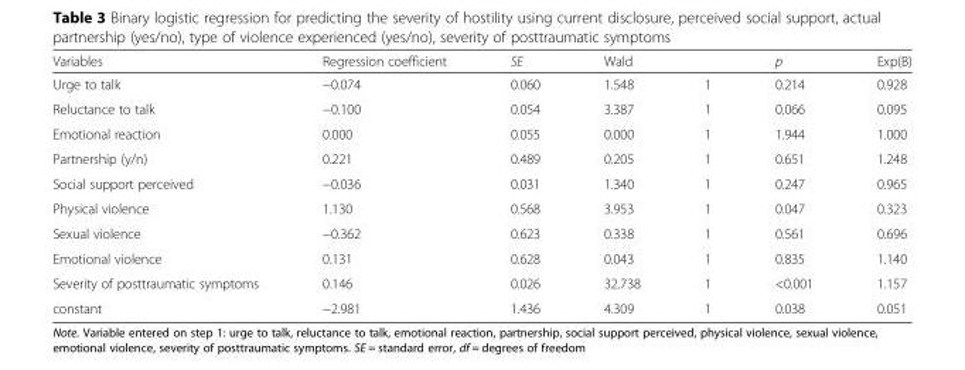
<table><thead><tr><td>Variables</td><td>Regression coefficient</td><td>SE</td><td>Wald</td><td></td><td>p</td><td>Exp(B)</td></tr></thead><tbody><tr><td>Urge to talk</td><td>−0.074</td><td>0.060</td><td>1.548</td><td>1</td><td>0.214</td><td>0.928</td></tr><tr><td>Reluctance to talk</td><td>−0.100</td><td>0.054</td><td>3.387</td><td>1</td><td>0.066</td><td>0.095</td></tr><tr><td>Emotional reaction</td><td>0.000</td><td>0.055</td><td>0.000</td><td>1</td><td>1.944</td><td>1.000</td></tr><tr><td>Partnership (y/n)</td><td>0.221</td><td>0.489</td><td>0.205</td><td>1</td><td>0.651</td><td>1.248</td></tr><tr><td>Social support perceived</td><td>−0.036</td><td>0.031</td><td>1.340</td><td>1</td><td>0.247</td><td>0.965</td></tr><tr><td>Physical violence</td><td>1.130</td><td>0.568</td><td>3.953</td><td>1</td><td>0.047</td><td>0.323</td></tr><tr><td>Sexual violence</td><td>−0.362</td><td>0.623</td><td>0.338</td><td>1</td><td>0.561</td><td>0.696</td></tr><tr><td>Emotional violence</td><td>0.131</td><td>0.628</td><td>0.043</td><td>1</td><td>0.835</td><td>1.140</td></tr><tr><td>Severity of posttraumatic symptoms</td><td>0.146</td><td>0.026</td><td>32.738</td><td>1</td><td>&lt;0.001</td><td>1.157</td></tr><tr><td>constant</td><td>−2.981</td><td>1.436</td><td>4.309</td><td>1</td><td>0.038</td><td>0.051</td></tr></tbody></table>